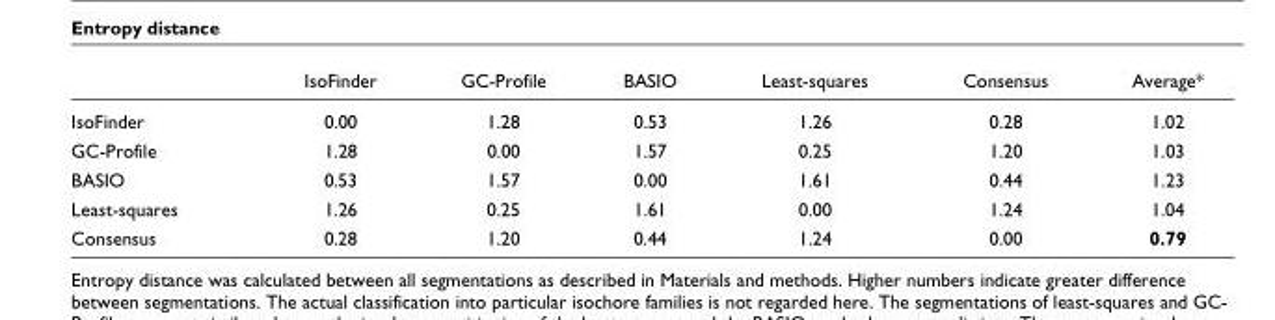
<table><thead><tr><td></td><td>IsoFinder</td><td>GC-Profile</td><td>BASIO</td><td>Least-squares</td><td>Consensus</td><td>Average*</td></tr></thead><tbody><tr><td>IsoFinder</td><td>0.00</td><td>1.28</td><td>0.53</td><td>1.26</td><td>0.28</td><td>1.02</td></tr><tr><td>GC-Profile</td><td>1.28</td><td>0.00</td><td>1.57</td><td>0.25</td><td>1.20</td><td>1.03</td></tr><tr><td>BASIO</td><td>0.53</td><td>1.57</td><td>0.00</td><td>1.61</td><td>0.44</td><td>1.23</td></tr><tr><td>Least-squares</td><td>1.26</td><td>0.25</td><td>1.61</td><td>0.00</td><td>1.24</td><td>1.04</td></tr><tr><td>Consensus</td><td>0.28</td><td>1.20</td><td>0.44</td><td>1.24</td><td>0.00</td><td>0.79</td></tr></tbody></table>